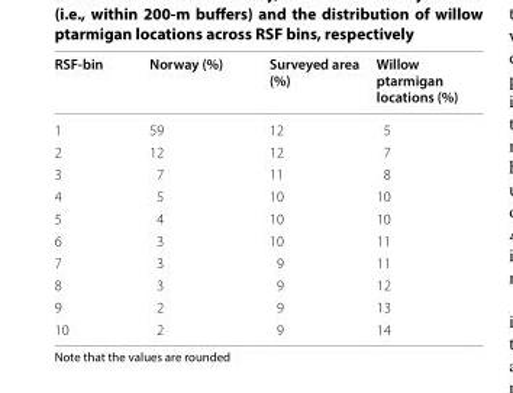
<table><thead><tr><td>RSF-bin</td><td>Norway (%)</td><td>Surveyed area (%)</td><td>Willow ptarmigan locations (%)</td></tr></thead><tbody><tr><td>1</td><td>59</td><td>12</td><td>5</td></tr><tr><td>2</td><td>12</td><td>12</td><td>7</td></tr><tr><td>3</td><td>7</td><td>11</td><td>8</td></tr><tr><td>4</td><td>5</td><td>10</td><td>10</td></tr><tr><td>5</td><td>4</td><td>10</td><td>10</td></tr><tr><td>6</td><td>3</td><td>10</td><td>11</td></tr><tr><td>7</td><td>3</td><td>9</td><td>11</td></tr><tr><td>8</td><td>3</td><td>9</td><td>12</td></tr><tr><td>9</td><td>2</td><td>9</td><td>13</td></tr><tr><td>10</td><td>2</td><td>9</td><td>14</td></tr></tbody></table>